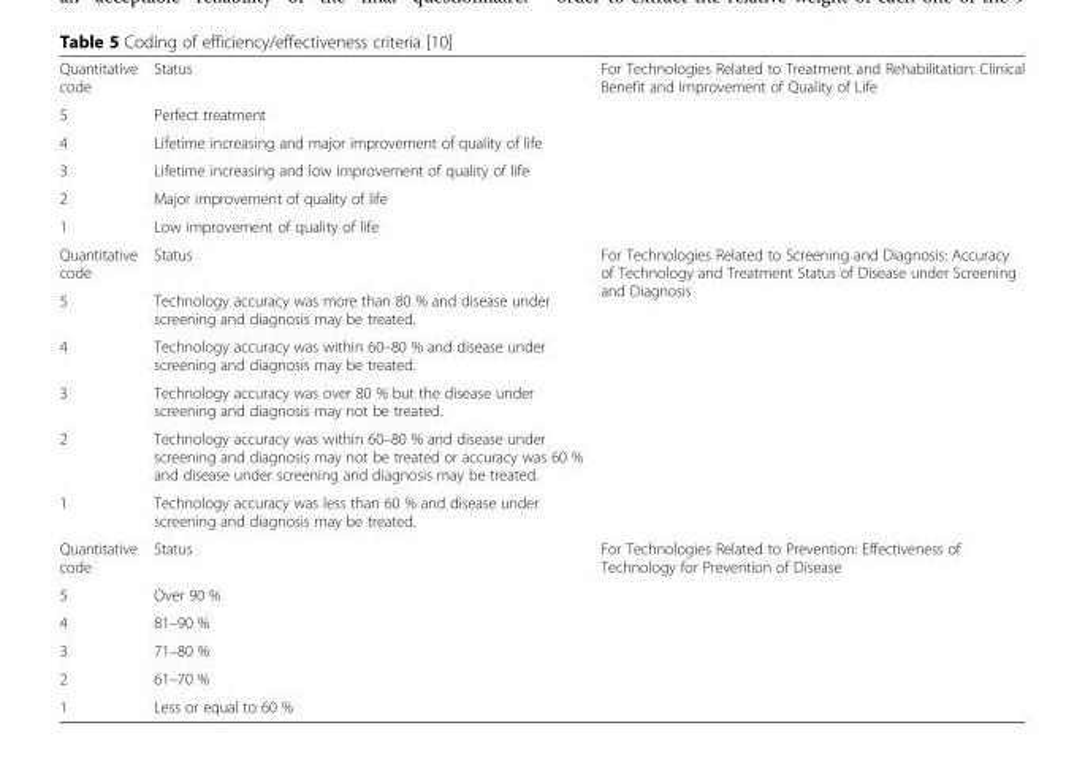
<table><tbody><tr><td>Quantitative code</td><td>Status</td><td rowspan="6">For Technologies Related to Treatment and Rehabilitation: Clinical Benefit and Improvement of Quality of Life</td></tr><tr><td>5</td><td>Perfect treatment</td></tr><tr><td>4</td><td>Lifetime increasing and major improvement of quality of life</td></tr><tr><td>3</td><td>Lifetime increasing and low improvement of quality of life</td></tr><tr><td>2</td><td>Major improvement of quality of life</td></tr><tr><td>1</td><td>Low improvement of quality of life</td></tr><tr><td>Quantitative code</td><td>Status</td><td rowspan="6">For Technologies Related to Screening and Diagnosis: Accuracy of Technology and Treatment Status of Disease under Screening and Diagnosis</td></tr><tr><td>5</td><td>Technology accuracy was more than 80 % and disease under screening and diagnosis may be treated.</td></tr><tr><td>4</td><td>Technology accuracy was within 60–80 % and disease under screening and diagnosis may be treated.</td></tr><tr><td>3</td><td>Technology accuracy was over 80 % but the disease under screening and diagnosis may not be treated.</td></tr><tr><td>2</td><td>Technology accuracy was within 60–80 % and disease under screening and diagnosis may not be treated or accuracy was 60 % and disease under screening and diagnosis may be treated.</td></tr><tr><td>1</td><td>Technology accuracy was less than 60 % and disease under screening and diagnosis may be treated.</td></tr><tr><td>Quantitative code</td><td>Status</td><td rowspan="6">For Technologies Related to Prevention: Effectiveness of Technology for Prevention of Disease</td></tr><tr><td>5</td><td>Over 90 %</td></tr><tr><td>4</td><td>81–90 %</td></tr><tr><td>3</td><td>71–80 %</td></tr><tr><td>2</td><td>61–70 %</td></tr><tr><td>1</td><td>Less or equal to 60 %</td></tr></tbody></table>